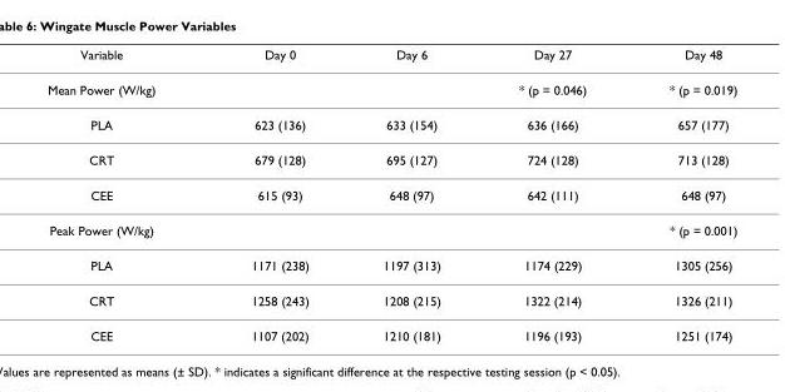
<table><thead><tr><td>Variable</td><td>Day 0</td><td>Day 6</td><td>Day 27</td><td>Day 48</td></tr></thead><tbody><tr><td>Mean Power (W/kg)</td><td></td><td></td><td>* (p = 0.046)</td><td>* (p = 0.019)</td></tr><tr><td>PLA</td><td>623 (136)</td><td>633 (154)</td><td>636 (166)</td><td>657 (177)</td></tr><tr><td>CRT</td><td>679 (128)</td><td>695 (127)</td><td>724 (128)</td><td>713 (128)</td></tr><tr><td>CEE</td><td>615 (93)</td><td>648 (97)</td><td>642 (111)</td><td>648 (97)</td></tr><tr><td>Peak Power (W/kg)</td><td></td><td></td><td></td><td>* (p = 0.001)</td></tr><tr><td>PLA</td><td>1171 (238)</td><td>1197 (313)</td><td>1174 (229)</td><td>1305 (256)</td></tr><tr><td>CRT</td><td>1258 (243)</td><td>1208 (215)</td><td>1322 (214)</td><td>1326 (211)</td></tr><tr><td>CEE</td><td>1107 (202)</td><td>1210 (181)</td><td>1196 (193)</td><td>1251 (174)</td></tr></tbody></table>